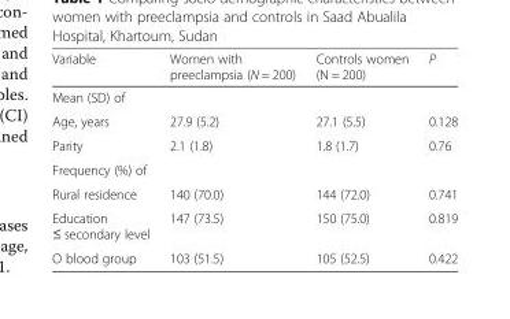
<table><thead><tr><td>Variable</td><td>Women with preeclampsia (N = 200)</td><td>Controls women (N = 200)</td><td>P</td></tr></thead><tbody><tr><td colspan="4">Mean (SD) of</td></tr><tr><td>Age, years</td><td>27.9 (5.2)</td><td>27.1 (5.5)</td><td>0.128</td></tr><tr><td>Parity</td><td>2.1 (1.8)</td><td>1.8 (1.7)</td><td>0.76</td></tr><tr><td colspan="4">Frequency (%) of</td></tr><tr><td>Rural residence</td><td>140 (70.0)</td><td>144 (72.0)</td><td>0.741</td></tr><tr><td>Education ≤ secondary level</td><td>147 (73.5)</td><td>150 (75.0)</td><td>0.819</td></tr><tr><td>O blood group</td><td>103 (51.5)</td><td>105 (52.5)</td><td>0.422</td></tr></tbody></table>